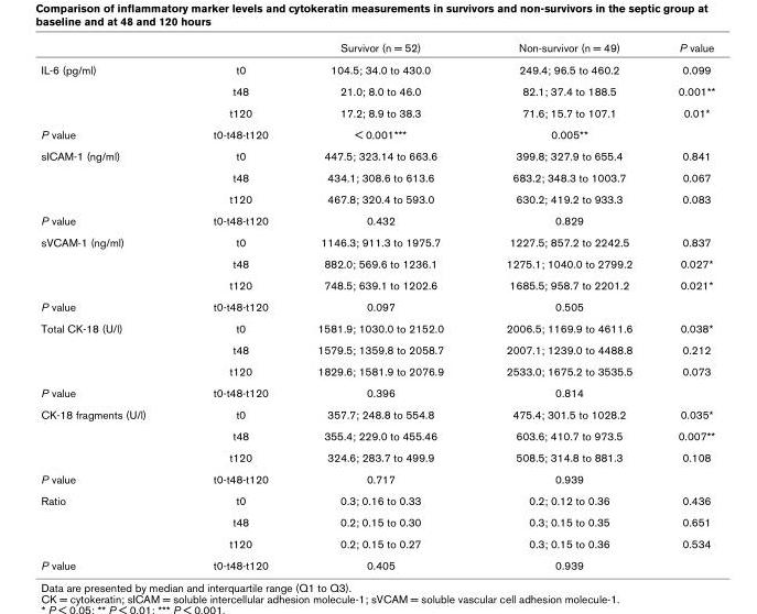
<table><thead><tr><td></td><td></td><td>Survivor (n = 52)</td><td>Non-survivor (n = 49)</td><td>P value</td></tr></thead><tbody><tr><td rowspan="3">IL-6 (pg/ml)</td><td>t0</td><td>104.5; 34.0 to 430.0</td><td>249.4; 96.5 to 460.2</td><td>0.099</td></tr><tr><td>t48</td><td>21.0; 8.0 to 46.0</td><td>82.1; 37.4 to 188.5</td><td>0.001**</td></tr><tr><td>t120</td><td>17.2; 8.9 to 38.3</td><td>71.6; 15.7 to 107.1</td><td>0.01*</td></tr><tr><td>P value</td><td>t0-t48-t120</td><td>&lt; 0.001***</td><td>0.005**</td><td></td></tr><tr><td rowspan="3">sICAM-1 (ng/ml)</td><td>t0</td><td>447.5; 323.14 to 663.6</td><td>399.8; 327.9 to 655.4</td><td>0.841</td></tr><tr><td>t48</td><td>434.1; 308.6 to 613.6</td><td>683.2; 348.3 to 1003.7</td><td>0.067</td></tr><tr><td>t120</td><td>467.8; 320.4 to 593.0</td><td>630.2; 419.2 to 933.3</td><td>0.083</td></tr><tr><td>P value</td><td>t0-t48-t120</td><td>0.432</td><td>0.829</td><td></td></tr><tr><td rowspan="3">sVCAM-1 (ng/ml)</td><td>t0</td><td>1146.3; 911.3 to 1975.7</td><td>1227.5; 857.2 to 2242.5</td><td>0.837</td></tr><tr><td>t48</td><td>882.0; 569.6 to 1236.1</td><td>1275.1; 1040.0 to 2799.2</td><td>0.027*</td></tr><tr><td>t120</td><td>748.5; 639.1 to 1202.6</td><td>1685.5; 958.7 to 2201.2</td><td>0.021*</td></tr><tr><td>P value</td><td>t0-t48-t120</td><td>0.097</td><td>0.505</td><td></td></tr><tr><td rowspan="3">Total CK-18 (U/l)</td><td>t0</td><td>1581.9; 1030.0 to 2152.0</td><td>2006.5; 1169.9 to 4611.6</td><td>0.038*</td></tr><tr><td>t48</td><td>1579.5; 1359.8 to 2058.7</td><td>2007.1; 1239.0 to 4488.8</td><td>0.212</td></tr><tr><td>t120</td><td>1829.6; 1581.9 to 2076.9</td><td>2533.0; 1675.2 to 3535.5</td><td>0.073</td></tr><tr><td>P value</td><td>t0-t48-t120</td><td>0.396</td><td>0.814</td><td></td></tr><tr><td rowspan="3">CK-18 fragments (U/l)</td><td>t0</td><td>357.7; 248.8 to 554.8</td><td>475.4; 301.5 to 1028.2</td><td>0.035*</td></tr><tr><td>t48</td><td>355.4; 229.0 to 455.46</td><td>603.6; 410.7 to 973.5</td><td>0.007**</td></tr><tr><td>t120</td><td>324.6; 283.7 to 499.9</td><td>508.5; 314.8 to 881.3</td><td>0.108</td></tr><tr><td>P value</td><td>t0-t48-t120</td><td>0.717</td><td>0.939</td><td></td></tr><tr><td rowspan="3">Ratio</td><td>t0</td><td>0.3; 0.16 to 0.33</td><td>0.2; 0.12 to 0.36</td><td>0.436</td></tr><tr><td>t48</td><td>0.2; 0.15 to 0.30</td><td>0.3; 0.15 to 0.35</td><td>0.651</td></tr><tr><td>t120</td><td>0.2; 0.15 to 0.27</td><td>0.3; 0.15 to 0.36</td><td>0.534</td></tr><tr><td>P value</td><td>t0-t48-t120</td><td>0.405</td><td>0.939</td><td></td></tr></tbody></table>